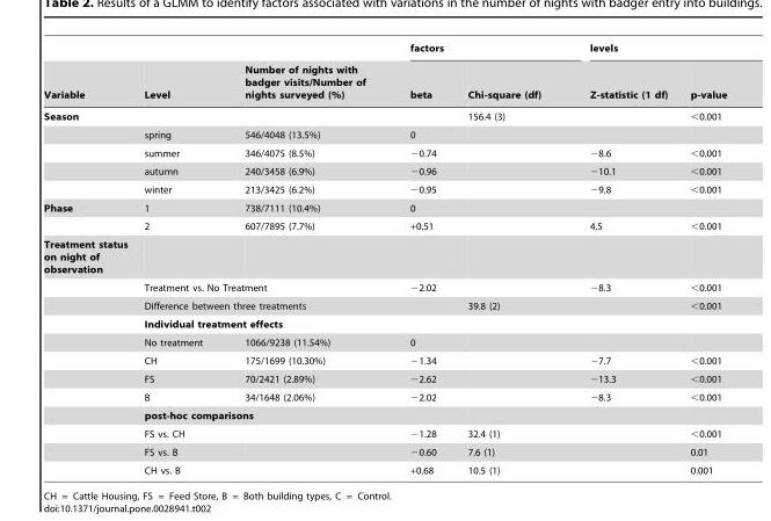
<table><thead><tr><td rowspan="2">Variable</td><td rowspan="2">Level</td><td rowspan="2">Number of nights with badger visits/Number of nights surveyed (%)</td><td colspan="2">factors</td><td colspan="2">levels</td></tr><tr><td>beta</td><td>Chi-square (df)</td><td>Z-statistic (1 df)</td><td>p-value</td></tr></thead><tbody><tr><td rowspan="5">Season</td><td></td><td></td><td></td><td>156.4 (3)</td><td></td><td>&lt;0.001</td></tr><tr><td>spring</td><td>546/4048 (13.5%)</td><td>0</td><td></td><td></td><td></td></tr><tr><td>summer</td><td>346/4075 (8.5%)</td><td>−0.74</td><td></td><td>−8.6</td><td>&lt;0.001</td></tr><tr><td>autumn</td><td>240/3458 (6.9%)</td><td>−0.96</td><td></td><td>−10.1</td><td>&lt;0.001</td></tr><tr><td>winter</td><td>213/3425 (6.2%)</td><td>−0.95</td><td></td><td>−9.8</td><td>&lt;0.001</td></tr><tr><td rowspan="2">Phase</td><td>1</td><td>738/7111 (10.4%)</td><td>0</td><td></td><td></td><td></td></tr><tr><td>2</td><td>607/7895 (7.7%)</td><td>+0.51</td><td></td><td>4.5</td><td>&lt;0.001</td></tr><tr><td colspan="7">Treatment status on night of observation</td></tr><tr><td></td><td colspan="2">Treatment vs. No Treatment</td><td>−2.02</td><td></td><td>−8.3</td><td>&lt;0.001</td></tr><tr><td></td><td colspan="2">Difference between three treatments</td><td></td><td>39.8 (2)</td><td></td><td>&lt;0.001</td></tr><tr><td></td><td colspan="2">Individual treatment effects</td><td></td><td></td><td></td><td></td></tr><tr><td></td><td>No treatment</td><td>1066/9238 (11.54%)</td><td>0</td><td></td><td></td><td></td></tr><tr><td></td><td>CH</td><td>175/1699 (10.30%)</td><td>−1.34</td><td></td><td>−7.7</td><td>&lt;0.001</td></tr><tr><td></td><td>FS</td><td>70/2421 (2.89%)</td><td>−2.62</td><td></td><td>−13.3</td><td>&lt;0.001</td></tr><tr><td></td><td>B</td><td>34/1648 (2.06%)</td><td>−2.02</td><td></td><td>−8.3</td><td>&lt;0.001</td></tr><tr><td></td><td colspan="2">post-hoc comparisons</td><td></td><td></td><td></td><td></td></tr><tr><td></td><td>FS vs. CH</td><td></td><td>−1.28</td><td>32.4 (1)</td><td></td><td>&lt;0.001</td></tr><tr><td></td><td>FS vs. B</td><td></td><td>−0.60</td><td>7.6 (1)</td><td></td><td>0.01</td></tr><tr><td></td><td>CH vs. B</td><td></td><td>+0.68</td><td>10.5 (1)</td><td></td><td>0.001</td></tr></tbody></table>